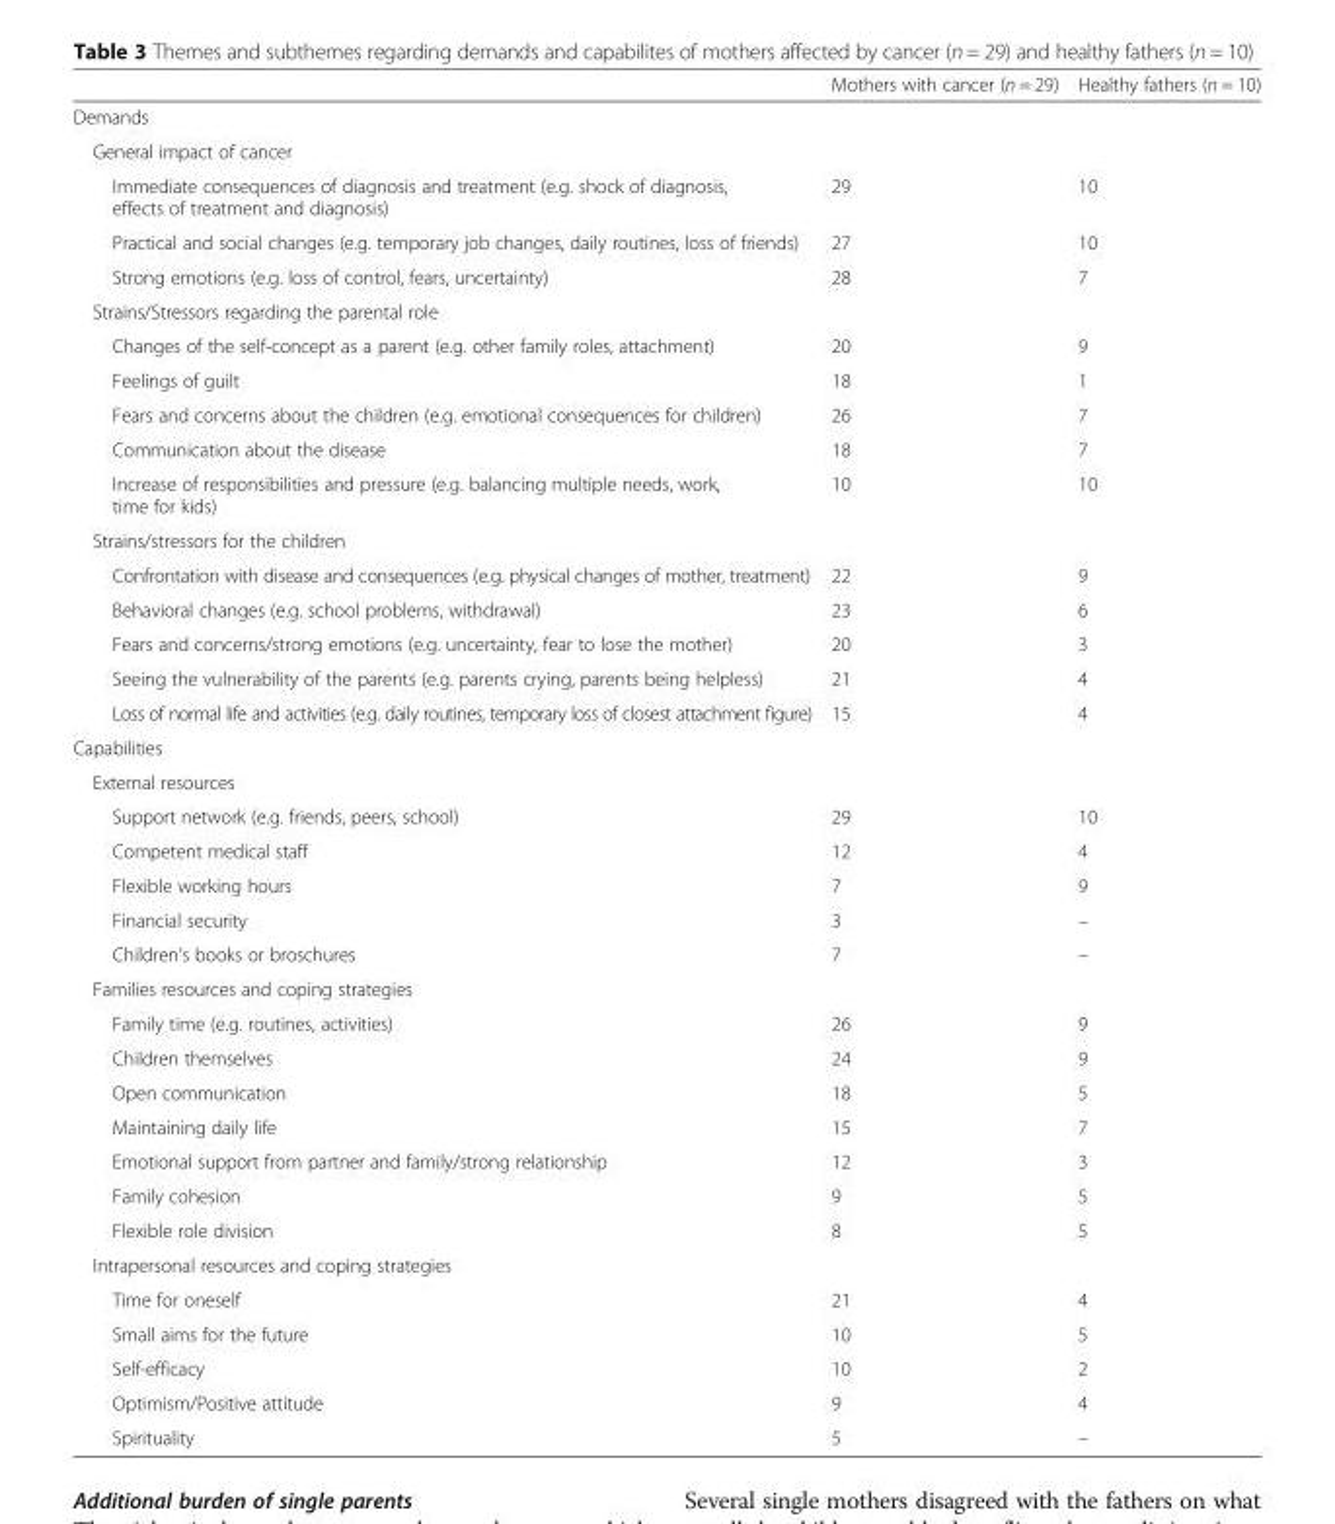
<table><thead><tr><td></td><td>Mothers with cancer (n = 29)</td><td>Healthy fathers (n = 10)</td></tr></thead><tbody><tr><td colspan="3">Demands</td></tr><tr><td colspan="3">General impact of cancer</td></tr><tr><td>Immediate consequences of diagnosis and treatment (e.g. shock of diagnosis, effects of treatment and diagnosis)</td><td>29</td><td>10</td></tr><tr><td>Practical and social changes (e.g. temporary job changes, daily routines, loss of friends)</td><td>27</td><td>10</td></tr><tr><td>Strong emotions (e.g. loss of control, fears, uncertainty)</td><td>28</td><td>7</td></tr><tr><td colspan="3">Strains/Stressors regarding the parental role</td></tr><tr><td>Changes of the self-concept as a parent (e.g. other family roles, attachment)</td><td>20</td><td>9</td></tr><tr><td>Feelings of guilt</td><td>18</td><td>1</td></tr><tr><td>Fears and concerns about the children (e.g. emotional consequences for children)</td><td>26</td><td>7</td></tr><tr><td>Communication about the disease</td><td>18</td><td>7</td></tr><tr><td>Increase of responsibilities and pressure (e.g. balancing multiple needs, work, time for kids)</td><td>10</td><td>10</td></tr><tr><td colspan="3">Strains/stressors for the children</td></tr><tr><td>Confrontation with disease and consequences (e.g. physical changes of mother, treatment)</td><td>22</td><td>9</td></tr><tr><td>Behavioral changes (e.g. school problems, withdrawal)</td><td>23</td><td>6</td></tr><tr><td>Fears and concerns/strong emotions (e.g. uncertainty, fear to lose the mother)</td><td>20</td><td>3</td></tr><tr><td>Seeing the vulnerability of the parents (e.g. parents crying, parents being helpless)</td><td>21</td><td>4</td></tr><tr><td>Loss of normal life and activities (e.g. daily routines, temporary loss of closest attachment figure)</td><td>15</td><td>4</td></tr><tr><td colspan="3">Capabilities</td></tr><tr><td colspan="3">External resources</td></tr><tr><td>Support network (e.g. friends, peers, school)</td><td>29</td><td>10</td></tr><tr><td>Competent medical staff</td><td>12</td><td>4</td></tr><tr><td>Flexible working hours</td><td>7</td><td>9</td></tr><tr><td>Financial security</td><td>3</td><td>–</td></tr><tr><td>Children’s books or broschures</td><td>7</td><td>–</td></tr><tr><td colspan="3">Families resources and coping strategies</td></tr><tr><td>Family time (e.g. routines, activities)</td><td>26</td><td>9</td></tr><tr><td>Children themselves</td><td>24</td><td>9</td></tr><tr><td>Open communication</td><td>18</td><td>5</td></tr><tr><td>Maintaining daily life</td><td>15</td><td>7</td></tr><tr><td>Emotional support from partner and family/strong relationship</td><td>12</td><td>3</td></tr><tr><td>Family cohesion</td><td>9</td><td>5</td></tr><tr><td>Flexible role division</td><td>8</td><td>5</td></tr><tr><td colspan="3">Intrapersonal resources and coping strategies</td></tr><tr><td>Time for oneself</td><td>21</td><td>4</td></tr><tr><td>Small aims for the future</td><td>10</td><td>5</td></tr><tr><td>Self-efficacy</td><td>10</td><td>2</td></tr><tr><td>Optimism/Positive attitude</td><td>9</td><td>4</td></tr><tr><td>Spirituality</td><td>5</td><td>–</td></tr></tbody></table>